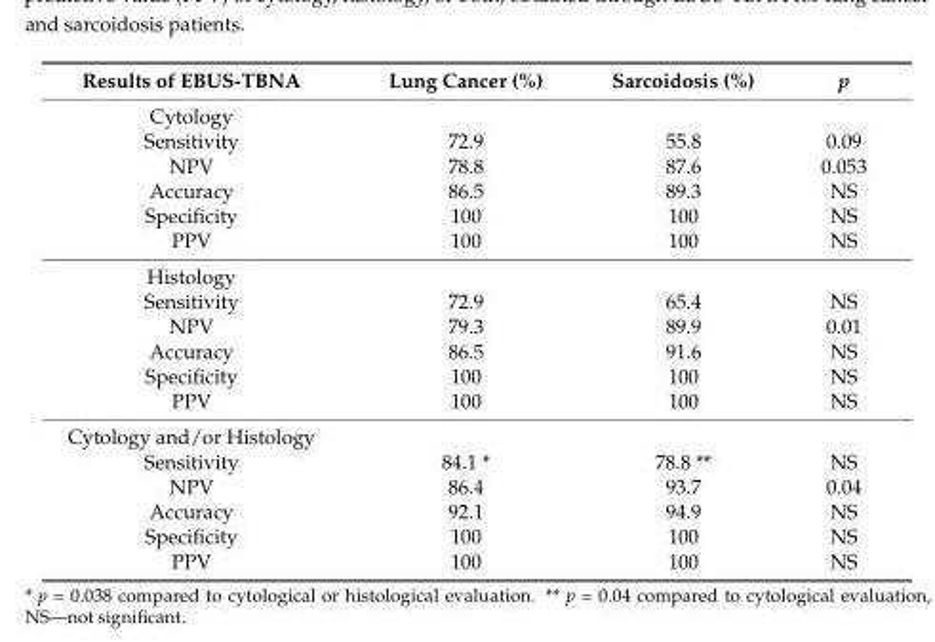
<table><thead><tr><td>Results of EBUS-TBNA</td><td>Lung Cancer (%)</td><td>Sarcoidosis (%)</td><td>p</td></tr></thead><tbody><tr><td colspan="4">Cytology</td></tr><tr><td>Sensitivity</td><td>72.9</td><td>55.8</td><td>0.09</td></tr><tr><td>NPV</td><td>78.8</td><td>87.6</td><td>0.053</td></tr><tr><td>Accuracy</td><td>86.5</td><td>89.3</td><td>NS</td></tr><tr><td>Specificity</td><td>100</td><td>100</td><td>NS</td></tr><tr><td>PPV</td><td>100</td><td>100</td><td>NS</td></tr><tr><td colspan="4">Histology</td></tr><tr><td>Sensitivity</td><td>72.9</td><td>65.4</td><td>NS</td></tr><tr><td>NPV</td><td>79.3</td><td>89.9</td><td>0.01</td></tr><tr><td>Accuracy</td><td>86.5</td><td>91.6</td><td>NS</td></tr><tr><td>Specificity</td><td>100</td><td>100</td><td>NS</td></tr><tr><td>PPV</td><td>100</td><td>100</td><td>NS</td></tr><tr><td colspan="4">Cytology and/or Histology</td></tr><tr><td>Sensitivity</td><td>84.1 *</td><td>78.8 **</td><td>NS</td></tr><tr><td>NPV</td><td>86.4</td><td>93.7</td><td>0.04</td></tr><tr><td>Accuracy</td><td>92.1</td><td>94.9</td><td>NS</td></tr><tr><td>Specificity</td><td>100</td><td>100</td><td>NS</td></tr><tr><td>PPV</td><td>100</td><td>100</td><td>NS</td></tr></tbody></table>